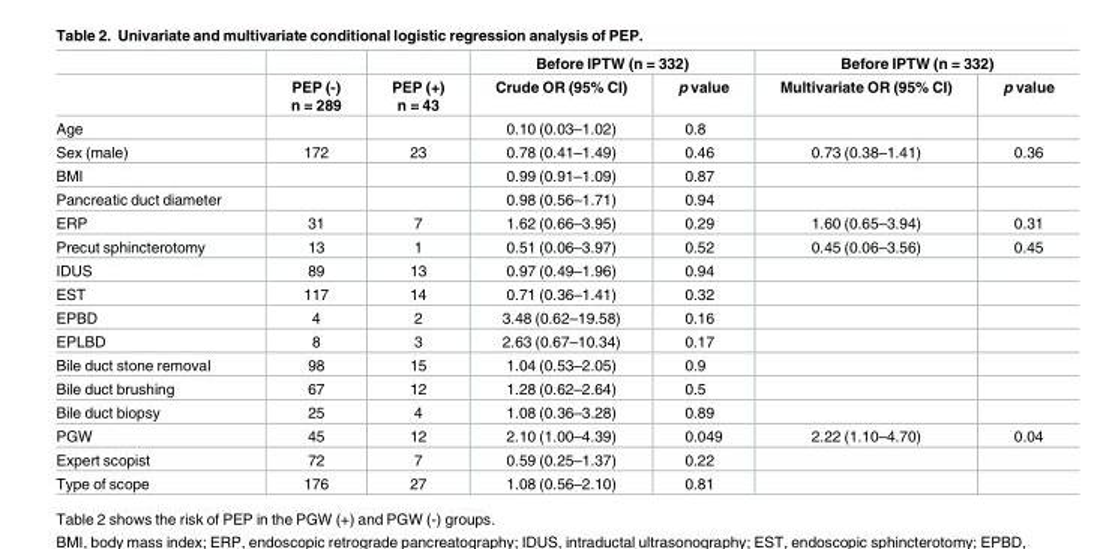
<table><thead><tr><td rowspan="2"></td><td rowspan="2">PEP (-) n = 289</td><td rowspan="2">PEP (+) n = 43</td><td colspan="2">Before IPTW (n = 332)</td><td colspan="2">Before IPTW (n = 332)</td></tr><tr><td>Crude OR (95% CI)</td><td>p value</td><td>Multivariate OR (95% CI)</td><td>p value</td></tr></thead><tbody><tr><td>Age</td><td></td><td></td><td>0.10 (0.03–1.02)</td><td>0.8</td><td></td><td></td></tr><tr><td>Sex (male)</td><td>172</td><td>23</td><td>0.78 (0.41–1.49)</td><td>0.46</td><td>0.73 (0.38–1.41)</td><td>0.36</td></tr><tr><td>BMI</td><td></td><td></td><td>0.99 (0.91–1.09)</td><td>0.87</td><td></td><td></td></tr><tr><td>Pancreatic duct diameter</td><td></td><td></td><td>0.98 (0.56–1.71)</td><td>0.94</td><td></td><td></td></tr><tr><td>ERP</td><td>31</td><td>7</td><td>1.62 (0.66–3.95)</td><td>0.29</td><td>1.60 (0.65–3.94)</td><td>0.31</td></tr><tr><td>Precut sphincterotomy</td><td>13</td><td>1</td><td>0.51 (0.06–3.97)</td><td>0.52</td><td>0.45 (0.06–3.56)</td><td>0.45</td></tr><tr><td>IDUS</td><td>89</td><td>13</td><td>0.97 (0.49–1.96)</td><td>0.94</td><td></td><td></td></tr><tr><td>EST</td><td>117</td><td>14</td><td>0.71 (0.36–1.41)</td><td>0.32</td><td></td><td></td></tr><tr><td>EPBD</td><td>4</td><td>2</td><td>3.48 (0.62–19.58)</td><td>0.16</td><td></td><td></td></tr><tr><td>EPLBD</td><td>8</td><td>3</td><td>2.63 (0.67–10.34)</td><td>0.17</td><td></td><td></td></tr><tr><td>Bile duct stone removal</td><td>98</td><td>15</td><td>1.04 (0.53–2.05)</td><td>0.9</td><td></td><td></td></tr><tr><td>Bile duct brushing</td><td>67</td><td>12</td><td>1.28 (0.62–2.64)</td><td>0.5</td><td></td><td></td></tr><tr><td>Bile duct biopsy</td><td>25</td><td>4</td><td>1.08 (0.36–3.28)</td><td>0.89</td><td></td><td></td></tr><tr><td>PGW</td><td>45</td><td>12</td><td>2.10 (1.00–4.39)</td><td>0.049</td><td>2.22 (1.10–4.70)</td><td>0.04</td></tr><tr><td>Expert scopist</td><td>72</td><td>7</td><td>0.59 (0.25–1.37)</td><td>0.22</td><td></td><td></td></tr><tr><td>Type of scope</td><td>176</td><td>27</td><td>1.08 (0.56–2.10)</td><td>0.81</td><td></td><td></td></tr></tbody></table>